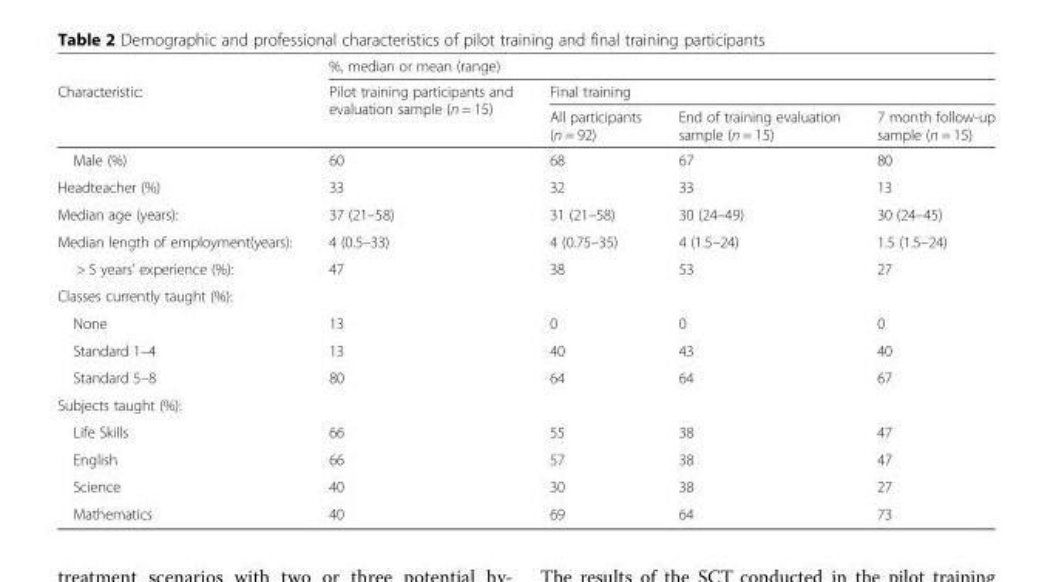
<table><thead><tr><td rowspan="3">Characteristic:</td><td colspan="4">%, median or mean (range)</td></tr><tr><td rowspan="2">Pilot training participants and evaluation sample (n = 15)</td><td colspan="3">Final training</td></tr><tr><td>All participants (n = 92)</td><td>End of training evaluation sample (n = 15)</td><td>7 month follow-up sample (n = 15)</td></tr></thead><tbody><tr><td>Male (%)</td><td>60</td><td>68</td><td>67</td><td>80</td></tr><tr><td>Headteacher (%)</td><td>33</td><td>32</td><td>33</td><td>13</td></tr><tr><td>Median age (years):</td><td>37 (21–58)</td><td>31 (21–58)</td><td>30 (24–49)</td><td>30 (24–45)</td></tr><tr><td>Median length of employment(years):</td><td>4 (0.5–33)</td><td>4 (0.75–35)</td><td>4 (1.5–24)</td><td>1.5 (1.5–24)</td></tr><tr><td>&gt; 5 years’ experience (%):</td><td>47</td><td>38</td><td>53</td><td>27</td></tr><tr><td colspan="5">Classes currently taught (%):</td></tr><tr><td>None</td><td>13</td><td>0</td><td>0</td><td>0</td></tr><tr><td>Standard 1–4</td><td>13</td><td>40</td><td>43</td><td>40</td></tr><tr><td>Standard 5–8</td><td>80</td><td>64</td><td>64</td><td>67</td></tr><tr><td colspan="5">Subjects taught (%):</td></tr><tr><td>Life Skills</td><td>66</td><td>55</td><td>38</td><td>47</td></tr><tr><td>English</td><td>66</td><td>57</td><td>38</td><td>47</td></tr><tr><td>Science</td><td>40</td><td>30</td><td>38</td><td>27</td></tr><tr><td>Mathematics</td><td>40</td><td>69</td><td>64</td><td>73</td></tr></tbody></table>